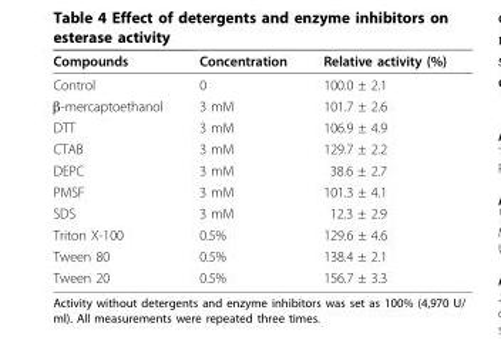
<table><thead><tr><td>Compounds</td><td>Concentration</td><td>Relative activity (%)</td></tr></thead><tbody><tr><td>Control</td><td>0</td><td>100.0 ± 2.1</td></tr><tr><td>β-mercaptoethanol</td><td>3 mM</td><td>101.7 ± 2.6</td></tr><tr><td>DTT</td><td>3 mM</td><td>106.9 ± 4.9</td></tr><tr><td>CTAB</td><td>3 mM</td><td>129.7 ± 2.2</td></tr><tr><td>DEPC</td><td>3 mM</td><td>38.6 ± 2.7</td></tr><tr><td>PMSF</td><td>3 mM</td><td>101.3 ± 4.1</td></tr><tr><td>SDS</td><td>3 mM</td><td>12.3 ± 2.9</td></tr><tr><td>Triton X-100</td><td>0.5%</td><td>129.6 ± 4.6</td></tr><tr><td>Tween 80</td><td>0.5%</td><td>138.4 ± 2.1</td></tr><tr><td>Tween 20</td><td>0.5%</td><td>156.7 ± 3.3</td></tr></tbody></table>